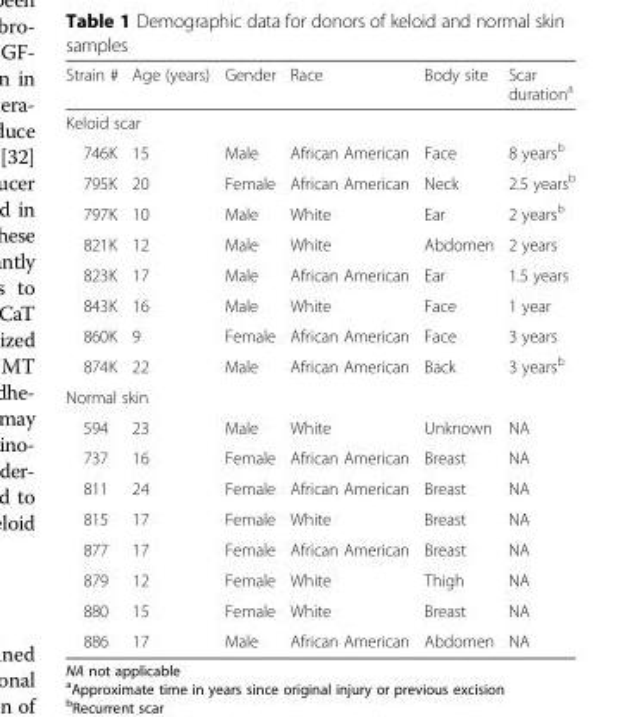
<table><thead><tr><td>Strain #</td><td>Age (years)</td><td>Gender</td><td>Race</td><td>Body site</td><td>Scar duration<sup>a</sup></td></tr></thead><tbody><tr><td colspan="6">Keloid scar</td></tr><tr><td>746K</td><td>15</td><td>Male</td><td>African American</td><td>Face</td><td>8 years<sup>b</sup></td></tr><tr><td>795K</td><td>20</td><td>Female</td><td>African American</td><td>Neck</td><td>2.5 years<sup>b</sup></td></tr><tr><td>797K</td><td>10</td><td>Male</td><td>White</td><td>Ear</td><td>2 years<sup>b</sup></td></tr><tr><td>821K</td><td>12</td><td>Male</td><td>White</td><td>Abdomen</td><td>2 years</td></tr><tr><td>823K</td><td>17</td><td>Male</td><td>African American</td><td>Ear</td><td>1.5 years</td></tr><tr><td>843K</td><td>16</td><td>Male</td><td>White</td><td>Face</td><td>1 year</td></tr><tr><td>860K</td><td>9</td><td>Female</td><td>African American</td><td>Face</td><td>3 years</td></tr><tr><td>874K</td><td>22</td><td>Male</td><td>African American</td><td>Back</td><td>3 years<sup>b</sup></td></tr><tr><td colspan="6">Normal skin</td></tr><tr><td>594</td><td>23</td><td>Male</td><td>White</td><td>Unknown</td><td>NA</td></tr><tr><td>737</td><td>16</td><td>Female</td><td>African American</td><td>Breast</td><td>NA</td></tr><tr><td>811</td><td>24</td><td>Female</td><td>African American</td><td>Breast</td><td>NA</td></tr><tr><td>815</td><td>17</td><td>Female</td><td>White</td><td>Breast</td><td>NA</td></tr><tr><td>877</td><td>17</td><td>Female</td><td>African American</td><td>Breast</td><td>NA</td></tr><tr><td>879</td><td>12</td><td>Female</td><td>White</td><td>Thigh</td><td>NA</td></tr><tr><td>880</td><td>15</td><td>Female</td><td>White</td><td>Breast</td><td>NA</td></tr><tr><td>886</td><td>17</td><td>Male</td><td>African American</td><td>Abdomen</td><td>NA</td></tr></tbody></table>